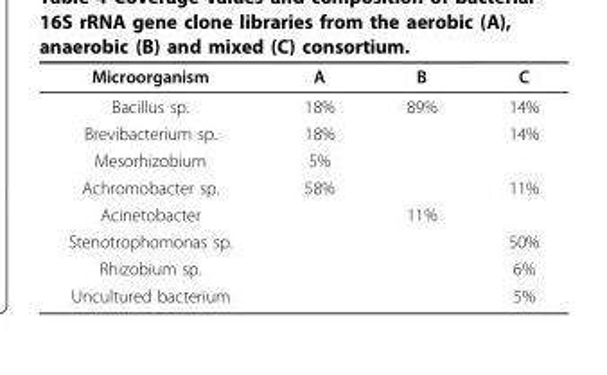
<table><thead><tr><td>Microorganism</td><td>A</td><td>B</td><td>C</td></tr></thead><tbody><tr><td>Bacillus sp.</td><td>18%</td><td>89%</td><td>14%</td></tr><tr><td>Brevibacterium sp.</td><td>18%</td><td></td><td>14%</td></tr><tr><td>Mesorhizobium</td><td>5%</td><td></td><td></td></tr><tr><td>Achromobacter sp.</td><td>58%</td><td></td><td>11%</td></tr><tr><td>Acinetobacter</td><td></td><td>11%</td><td></td></tr><tr><td>Stenotrophomonas sp.</td><td></td><td></td><td>50%</td></tr><tr><td>Rhizobium sp.</td><td></td><td></td><td>6%</td></tr><tr><td>Uncultured bacterium</td><td></td><td></td><td>5%</td></tr></tbody></table>